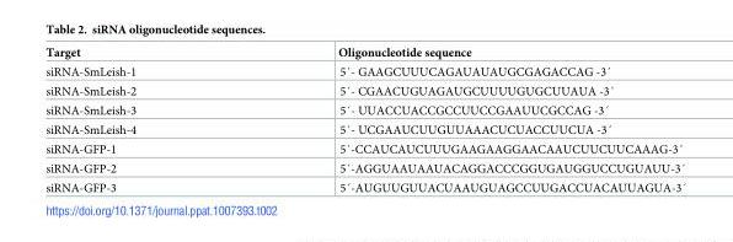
<table><thead><tr><td>Target</td><td>Oligonucleotide sequence</td></tr></thead><tbody><tr><td>siRNA-SmLeish-1</td><td>5´- GAAGCUUUCAGAUAUAUGCGAGACCAG -3´</td></tr><tr><td>siRNA-SmLeish-2</td><td>5´- CGAACUGUAGAUGCUUUUGUGCUUAUA -3´</td></tr><tr><td>siRNA-SmLeish-3</td><td>5´- UUACCUACCGCCUUCCGAAUUCGCCAG -3´</td></tr><tr><td>siRNA-SmLeish-4</td><td>5´- UCGAAUCUUGUUAAACUCUACCUUCUA -3´</td></tr><tr><td>siRNA-GFP-1</td><td>5´-CCAUCAUCUUUGAAGAAGGAACAAUCUUCUUCAAAG-3´</td></tr><tr><td>siRNA-GFP-2</td><td>5´-AGGUAAUAAUACAGGACCCGGUGAUGGUCCUGUAUU-3´</td></tr><tr><td>siRNA-GFP-3</td><td>5´-AUGUUGUUACUAAUGUAGCCUUGACCUACAUUAGUA-3´</td></tr></tbody></table>